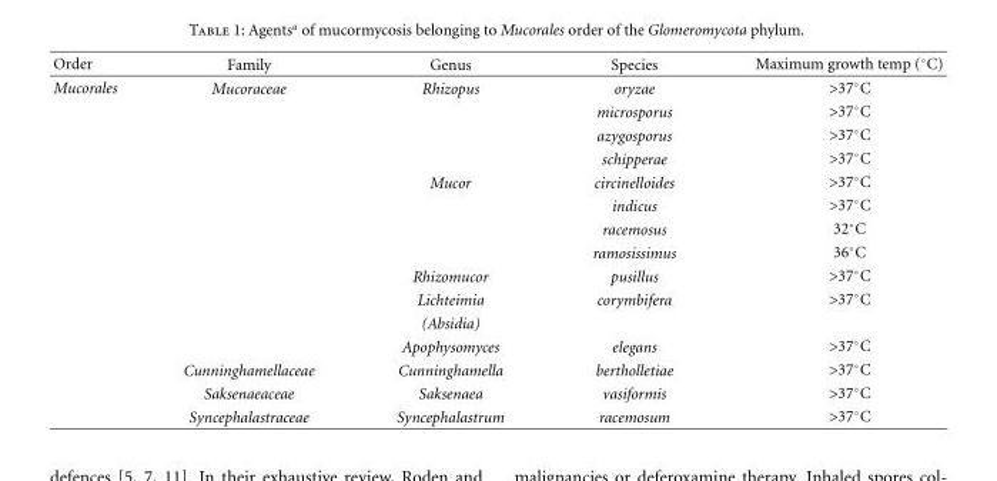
<table><thead><tr><td>Order</td><td>Family</td><td>Genus</td><td>Species</td><td>Maximum growth temp (◦C)</td></tr></thead><tbody><tr><td rowspan="15">Mucorales</td><td>Mucoraceae</td><td>Rhizopus</td><td>oryzae</td><td>&gt;37◦C</td></tr><tr><td></td><td></td><td>microsporus</td><td>&gt;37◦C</td></tr><tr><td></td><td></td><td>azygosporus</td><td>&gt;37◦C</td></tr><tr><td></td><td></td><td>schipperae</td><td>&gt;37◦C</td></tr><tr><td></td><td>Mucor</td><td>circinelloides</td><td>&gt;37◦C</td></tr><tr><td></td><td></td><td>indicus</td><td>&gt;37◦C</td></tr><tr><td></td><td></td><td>racemosus</td><td>32◦C</td></tr><tr><td></td><td></td><td>ramosissimus</td><td>36◦C</td></tr><tr><td></td><td>Rhizomucor</td><td>pusillus</td><td>&gt;37◦C</td></tr><tr><td></td><td>Lichteimia</td><td>corymbifera</td><td>&gt;37◦C</td></tr><tr><td></td><td>(Absidia)</td><td></td><td></td></tr><tr><td></td><td>Apophysomyces</td><td>elegans</td><td>&gt;37◦C</td></tr><tr><td>Cunninghamellaceae</td><td>Cunninghamella</td><td>bertholletiae</td><td>&gt;37◦C</td></tr><tr><td>Saksenaeaceae</td><td>Saksenaea</td><td>vasiformis</td><td>&gt;37◦C</td></tr><tr><td>Syncephalastraceae</td><td>Syncephalastrum</td><td>racemosum</td><td>&gt;37◦C</td></tr></tbody></table>